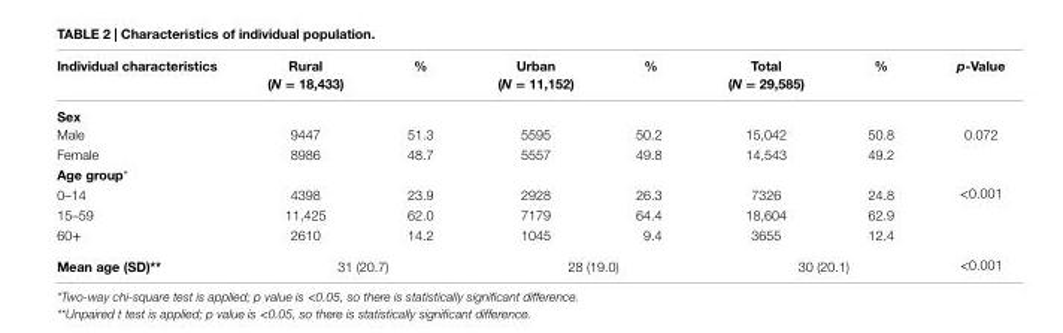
<table><thead><tr><td>individual characteristics</td><td>rural (N = 18,433)</td><td>%</td><td>Urban (N = 11,152)</td><td>%</td><td>Total (N = 29,585)</td><td>%</td><td>p-Value</td></tr></thead><tbody><tr><td colspan="8">sex</td></tr><tr><td>Male</td><td>9447</td><td>51.3</td><td>5595</td><td>50.2</td><td>15,042</td><td>50.8</td><td rowspan="2">0.072</td></tr><tr><td>Female</td><td>8986</td><td>48.7</td><td>5557</td><td>49.8</td><td>14,543</td><td>49.2</td></tr><tr><td colspan="8">age group*</td></tr><tr><td>0–14</td><td>4398</td><td>23.9</td><td>2928</td><td>26.3</td><td>7326</td><td>24.8</td><td rowspan="3">&lt;0.001</td></tr><tr><td>15–59</td><td>11,425</td><td>62.0</td><td>7179</td><td>64.4</td><td>18,604</td><td>62.9</td></tr><tr><td>60+</td><td>2610</td><td>14.2</td><td>1045</td><td>9.4</td><td>3655</td><td>12.4</td></tr><tr><td>Mean age (sD)**</td><td colspan="2">31 (20.7)</td><td colspan="2">28 (19.0)</td><td colspan="2">30 (20.1)</td><td>&lt;0.001</td></tr></tbody></table>